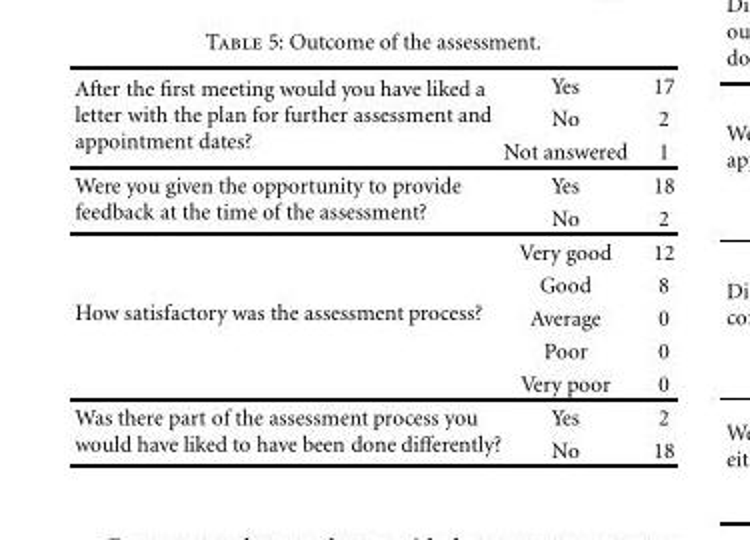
<table><tbody><tr><td rowspan="3">After the first meeting would you have liked a letter with the plan for further assessment and appointment dates?</td><td>Yes</td><td>17</td></tr><tr><td>No</td><td>2</td></tr><tr><td>Not answered</td><td>1</td></tr><tr><td rowspan="2">Were you given the opportunity to provide feedback at the time of the assessment?</td><td>Yes</td><td>18</td></tr><tr><td>No</td><td>2</td></tr><tr><td rowspan="5">How satisfactory was the assessment process?</td><td>Very good</td><td>12</td></tr><tr><td>Good</td><td>8</td></tr><tr><td>Average</td><td>0</td></tr><tr><td>Poor</td><td>0</td></tr><tr><td>Very poor</td><td>0</td></tr><tr><td rowspan="2">Was there part of the assessment process you would have liked to have been done differently?</td><td>Yes</td><td>2</td></tr><tr><td>No</td><td>18</td></tr></tbody></table>